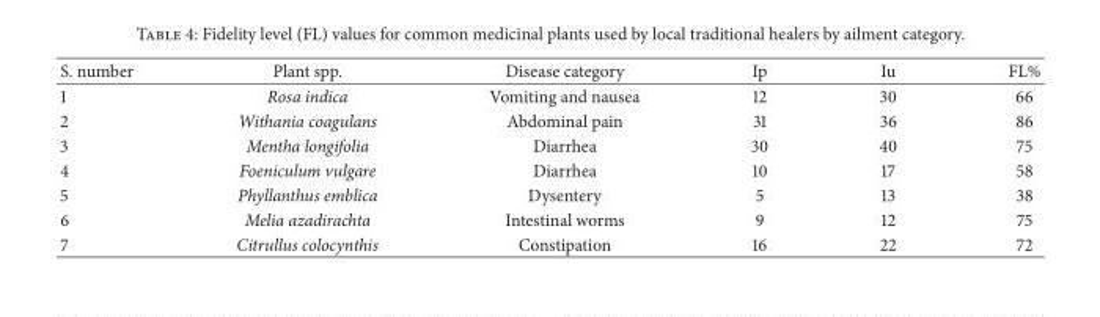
<table><thead><tr><td>S. number</td><td>Plant spp.</td><td>Disease category</td><td>Ip</td><td>Iu</td><td>FL%</td></tr></thead><tbody><tr><td>1</td><td>Rosa indica</td><td>Vomiting and nausea</td><td>12</td><td>30</td><td>66</td></tr><tr><td>2</td><td>Withania coagulans</td><td>Abdominal pain</td><td>31</td><td>36</td><td>86</td></tr><tr><td>3</td><td>Mentha longifolia</td><td>Diarrhea</td><td>30</td><td>40</td><td>75</td></tr><tr><td>4</td><td>Foeniculum vulgare</td><td>Diarrhea</td><td>10</td><td>17</td><td>58</td></tr><tr><td>5</td><td>Phyllanthus emblica</td><td>Dysentery</td><td>5</td><td>13</td><td>38</td></tr><tr><td>6</td><td>Melia azadirachta</td><td>Intestinal worms</td><td>9</td><td>12</td><td>75</td></tr><tr><td>7</td><td>Citrullus colocynthis</td><td>Constipation</td><td>16</td><td>22</td><td>72</td></tr></tbody></table>